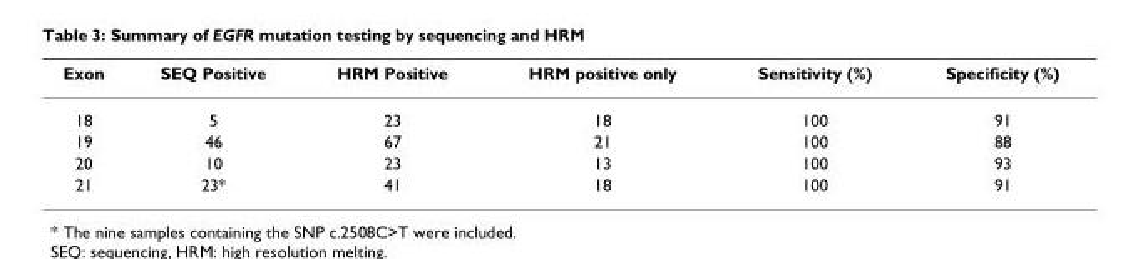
<table><thead><tr><td>Exon</td><td>SEQ Positive</td><td>HRM Positive</td><td>HRM positive only</td><td>Sensitivity (%)</td><td>Specificity (%)</td></tr></thead><tbody><tr><td>18</td><td>5</td><td>23</td><td>18</td><td>100</td><td>91</td></tr><tr><td>19</td><td>46</td><td>67</td><td>21</td><td>100</td><td>88</td></tr><tr><td>20</td><td>10</td><td>23</td><td>13</td><td>100</td><td>93</td></tr><tr><td>21</td><td>23*</td><td>41</td><td>18</td><td>100</td><td>91</td></tr></tbody></table>